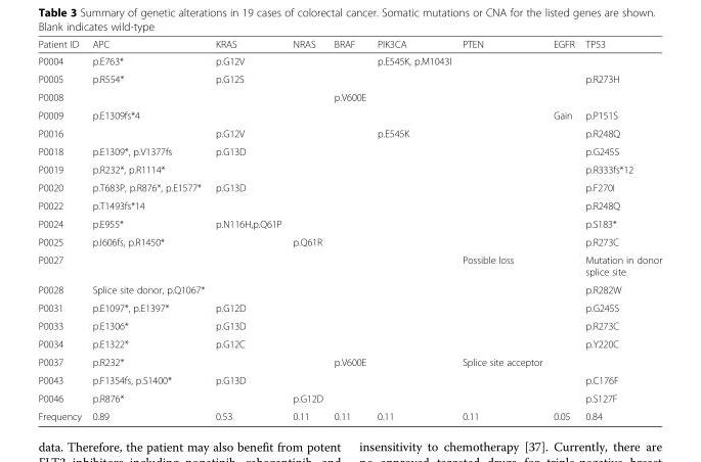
<table><thead><tr><td>Patient ID</td><td>APC</td><td>KRAS</td><td>NRAS</td><td>BRAF</td><td>PIK3CA</td><td>PTEN</td><td>EGFR</td><td>TP53</td></tr></thead><tbody><tr><td>P0004</td><td>p.E763*</td><td>p.G12V</td><td></td><td></td><td>p.E545K, p.M1043I</td><td></td><td></td><td></td></tr><tr><td>P0005</td><td>p.R554*</td><td>p.G12S</td><td></td><td></td><td></td><td></td><td></td><td>p.R273H</td></tr><tr><td>P0008</td><td></td><td></td><td></td><td>p.V600E</td><td></td><td></td><td></td><td></td></tr><tr><td>P0009</td><td>p.E1309fs*4</td><td></td><td></td><td></td><td></td><td></td><td>Gain</td><td>p.P151S</td></tr><tr><td>P0016</td><td></td><td>p.G12V</td><td></td><td></td><td>p.E545K</td><td></td><td></td><td>p.R248Q</td></tr><tr><td>P0018</td><td>p.E1309*, p.V1377fs</td><td>p.G13D</td><td></td><td></td><td></td><td></td><td></td><td>p.G245S</td></tr><tr><td>P0019</td><td>p.R232*, p.R1114*</td><td></td><td></td><td></td><td></td><td></td><td></td><td>p.R333fs*12</td></tr><tr><td>P0020</td><td>p.T683P, p.R876*, p.E1577*</td><td>p.G13D</td><td></td><td></td><td></td><td></td><td></td><td>p.F270I</td></tr><tr><td>P0022</td><td>p.T1493fs*14</td><td></td><td></td><td></td><td></td><td></td><td></td><td>p.R248Q</td></tr><tr><td>P0024</td><td>p.E955*</td><td>p.N116H,p.Q61P</td><td></td><td></td><td></td><td></td><td></td><td>p.S183*</td></tr><tr><td>P0025</td><td>p.I606fs, p.R1450*</td><td></td><td>p.Q61R</td><td></td><td></td><td></td><td></td><td>p.R273C</td></tr><tr><td>P0027</td><td></td><td></td><td></td><td></td><td></td><td>Possible loss</td><td></td><td>Mutation in donor splice site</td></tr><tr><td>P0028</td><td>Splice site donor, p.Q1067*</td><td></td><td></td><td></td><td></td><td></td><td></td><td>p.R282W</td></tr><tr><td>P0031</td><td>p.E1097*, p.E1397*</td><td>p.G12D</td><td></td><td></td><td></td><td></td><td></td><td>p.G245S</td></tr><tr><td>P0033</td><td>p.E1306*</td><td>p.G13D</td><td></td><td></td><td></td><td></td><td></td><td>p.R273C</td></tr><tr><td>P0034</td><td>p.E1322*</td><td>p.G12C</td><td></td><td></td><td></td><td></td><td></td><td>p.Y220C</td></tr><tr><td>P0037</td><td>p.R232*</td><td></td><td></td><td>p.V600E</td><td></td><td>Splice site acceptor</td><td></td><td></td></tr><tr><td>P0043</td><td>p.F1354fs, p.S1400*</td><td>p.G13D</td><td></td><td></td><td></td><td></td><td></td><td>p.C176F</td></tr><tr><td>P0046</td><td>p.R876*</td><td></td><td>p.G12D</td><td></td><td></td><td></td><td></td><td>p.S127F</td></tr><tr><td>Frequency</td><td>0.89</td><td>0.53</td><td>0.11</td><td>0.11</td><td>0.11</td><td>0.11</td><td>0.05</td><td>0.84</td></tr></tbody></table>